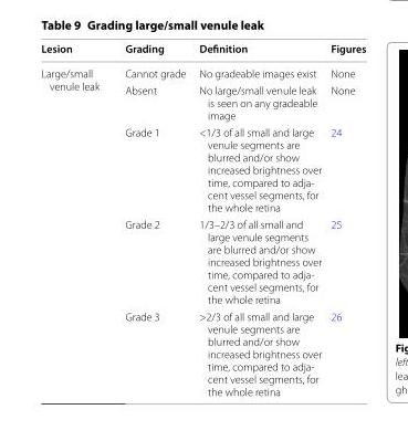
<table><thead><tr><td>Lesion</td><td>Grading</td><td>Definition</td><td>Figures</td></tr></thead><tbody><tr><td rowspan="5">Large/small venule leak</td><td>Cannot grade</td><td>No gradeable images exist</td><td>None</td></tr><tr><td>Absent</td><td>No large/small venule leak is seen on any gradeable image</td><td>None</td></tr><tr><td>Grade 1</td><td>&lt;1/3 of all small and large venule segments are blurred and/or show increased brightness over time, compared to adja- cent vessel segments, for the whole retina</td><td>24</td></tr><tr><td>Grade 2</td><td>1/3–2/3 of all small and large venule segments are blurred and/or show increased brightness over time, compared to adja- cent vessel segments, for the whole retina</td><td>25</td></tr><tr><td>Grade 3</td><td>&gt;2/3 of all small and large venule segments are blurred and/or show increased brightness over time, compared to adja- cent vessel segments, for the whole retina</td><td>26</td></tr></tbody></table>